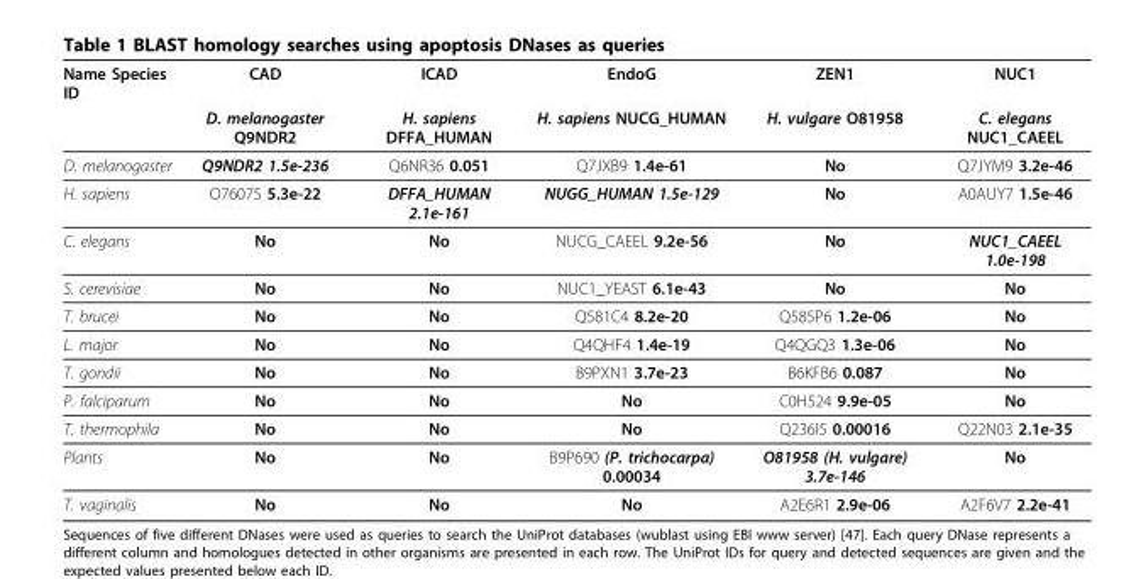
<table><thead><tr><td rowspan="2">Name Species ID</td><td rowspan="2">CAD D. melanogaster Q9NDR2</td><td rowspan="2">ICAD H. sapiens DFFA_HUMAN</td><td rowspan="2">EndoG H. sapiens NUCG_HUMAN</td><td rowspan="2">ZEN1 H. vulgare O81958</td><td rowspan="2">NUC1 C. elegans NUC1_CAEEL</td></tr><tr></tr></thead><tbody><tr><td>D. melanogaster</td><td>Q9NDR2 1.5e-236</td><td>Q6NR36 0.051</td><td>Q7JXB9 1.4e-61</td><td>No</td><td>Q7JYM9 3.2e-46</td></tr><tr><td>H. sapiens</td><td>O76075 5.3e-22</td><td>DFFA_HUMAN 2.1e-161</td><td>NUGG_HUMAN 1.5e-129</td><td>No</td><td>A0AUY7 1.5e-46</td></tr><tr><td>C. elegans</td><td>No</td><td>No</td><td>NUCG_CAEEL 9.2e-56</td><td>No</td><td>NUC1_CAEEL 1.0e-198</td></tr><tr><td>S. cerevisiae</td><td>No</td><td>No</td><td>NUC1_YEAST 6.1e-43</td><td>No</td><td>No</td></tr><tr><td>T. brucei</td><td>No</td><td>No</td><td>Q581C4 8.2e-20</td><td>Q585P6 1.2e-06</td><td>No</td></tr><tr><td>L. major</td><td>No</td><td>No</td><td>Q4QHF4 1.4e-19</td><td>Q4QGQ3 1.3e-06</td><td>No</td></tr><tr><td>T. gondii</td><td>No</td><td>No</td><td>B9PXN1 3.7e-23</td><td>B6KFB6 0.087</td><td>No</td></tr><tr><td>P. falciparum</td><td>No</td><td>No</td><td>No</td><td>C0H524 9.9e-05</td><td>No</td></tr><tr><td>T. thermophila</td><td>No</td><td>No</td><td>No</td><td>Q236I5 0.00016</td><td>Q22N03 2.1e-35</td></tr><tr><td>Plants</td><td>No</td><td>No</td><td>B9P690 (P. trichocarpa) 0.00034</td><td>O81958 (H. vulgare) 3.7e-146</td><td>No</td></tr><tr><td>T. vaginalis</td><td>No</td><td>No</td><td>No</td><td>A2E6R1 2.9e-06</td><td>A2F6V7 2.2e-41</td></tr></tbody></table>